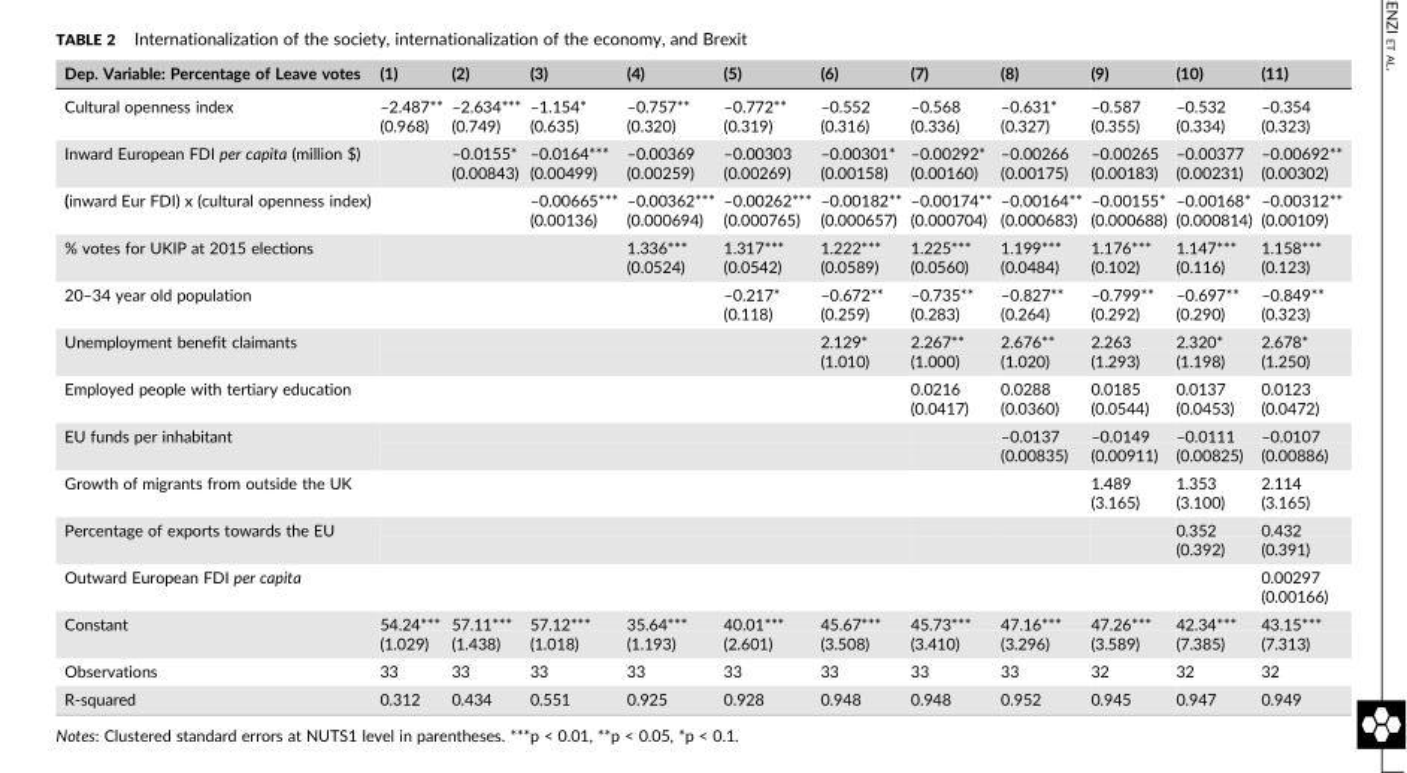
<table><thead><tr><td>Dep. Variable: Percentage of Leave votes</td><td>(1)</td><td>(2)</td><td>(3)</td><td>(4)</td><td>(5)</td><td>(6)</td><td>(7)</td><td>(8)</td><td>(9)</td><td>(10)</td><td>(11)</td></tr></thead><tbody><tr><td rowspan="2">Cultural openness index</td><td>–2.487**</td><td>–2.634***</td><td>–1.154*</td><td>–0.757**</td><td>–0.772**</td><td>–0.552</td><td>–0.568</td><td>–0.631*</td><td>–0.587</td><td>–0.532</td><td>–0.354</td></tr><tr><td>(0.968)</td><td>(0.749)</td><td>(0.635)</td><td>(0.320)</td><td>(0.319)</td><td>(0.316)</td><td>(0.336)</td><td>(0.327)</td><td>(0.355)</td><td>(0.334)</td><td>(0.323)</td></tr><tr><td rowspan="2">Inward European FDI per capita (million $)</td><td></td><td>–0.0155*</td><td>–0.0164***</td><td>–0.00369</td><td>–0.00303</td><td>–0.00301*</td><td>–0.00292*</td><td>–0.00266</td><td>–0.00265</td><td>–0.00377</td><td>–0.00692**</td></tr><tr><td></td><td>(0.00843)</td><td>(0.00499)</td><td>(0.00259)</td><td>(0.00269)</td><td>(0.00158)</td><td>(0.00160)</td><td>(0.00175)</td><td>(0.00183)</td><td>(0.00231)</td><td>(0.00302)</td></tr><tr><td rowspan="2">(inward Eur FDI) x (cultural openness index)</td><td></td><td></td><td>–0.00665***</td><td>–0.00362***</td><td>–0.00262***</td><td>–0.00182**</td><td>–0.00174**</td><td>–0.00164**</td><td>–0.00155*</td><td>–0.00168*</td><td>–0.00312**</td></tr><tr><td></td><td></td><td>(0.00136)</td><td>(0.000694)</td><td>(0.000765)</td><td>(0.000657)</td><td>(0.000704)</td><td>(0.000683)</td><td>(0.000688)</td><td>(0.000814)</td><td>(0.00109)</td></tr><tr><td rowspan="2">% votes for UKIP at 2015 elections</td><td></td><td></td><td></td><td>1.336***</td><td>1.317***</td><td>1.222***</td><td>1.225***</td><td>1.199***</td><td>1.176***</td><td>1.147***</td><td>1.158***</td></tr><tr><td></td><td></td><td></td><td>(0.0524)</td><td>(0.0542)</td><td>(0.0589)</td><td>(0.0560)</td><td>(0.0484)</td><td>(0.102)</td><td>(0.116)</td><td>(0.123)</td></tr><tr><td rowspan="2">20–34 year old population</td><td></td><td></td><td></td><td></td><td>–0.217*</td><td>–0.672**</td><td>–0.735**</td><td>–0.827**</td><td>–0.799**</td><td>–0.697**</td><td>–0.849**</td></tr><tr><td></td><td></td><td></td><td></td><td>(0.118)</td><td>(0.259)</td><td>(0.283)</td><td>(0.264)</td><td>(0.292)</td><td>(0.290)</td><td>(0.323)</td></tr><tr><td rowspan="2">Unemployment benefit claimants</td><td></td><td></td><td></td><td></td><td></td><td>2.129*</td><td>2.267**</td><td>2.676**</td><td>2.263</td><td>2.320*</td><td>2.678*</td></tr><tr><td></td><td></td><td></td><td></td><td></td><td>(1.010)</td><td>(1.000)</td><td>(1.020)</td><td>(1.293)</td><td>(1.198)</td><td>(1.250)</td></tr><tr><td rowspan="2">Employed people with tertiary education</td><td></td><td></td><td></td><td></td><td></td><td></td><td>0.0216</td><td>0.0288</td><td>0.0185</td><td>0.0137</td><td>0.0123</td></tr><tr><td></td><td></td><td></td><td></td><td></td><td></td><td>(0.0417)</td><td>(0.0360)</td><td>(0.0544)</td><td>(0.0453)</td><td>(0.0472)</td></tr><tr><td rowspan="2">EU funds per inhabitant</td><td></td><td></td><td></td><td></td><td></td><td></td><td></td><td>–0.0137</td><td>–0.0149</td><td>–0.0111</td><td>–0.0107</td></tr><tr><td></td><td></td><td></td><td></td><td></td><td></td><td></td><td>(0.00835)</td><td>(0.00911)</td><td>(0.00825)</td><td>(0.00886)</td></tr><tr><td rowspan="2">Growth of migrants from outside the UK</td><td></td><td></td><td></td><td></td><td></td><td></td><td></td><td></td><td>1.489</td><td>1.353</td><td>2.114</td></tr><tr><td></td><td></td><td></td><td></td><td></td><td></td><td></td><td></td><td>(3.165)</td><td>(3.100)</td><td>(3.165)</td></tr><tr><td rowspan="2">Percentage of exports towards the EU</td><td></td><td></td><td></td><td></td><td></td><td></td><td></td><td></td><td></td><td>0.352</td><td>0.432</td></tr><tr><td></td><td></td><td></td><td></td><td></td><td></td><td></td><td></td><td></td><td>(0.392)</td><td>(0.391)</td></tr><tr><td rowspan="2">Outward European FDI per capita</td><td></td><td></td><td></td><td></td><td></td><td></td><td></td><td></td><td></td><td></td><td>0.00297</td></tr><tr><td></td><td></td><td></td><td></td><td></td><td></td><td></td><td></td><td></td><td></td><td>(0.00166)</td></tr><tr><td rowspan="2">Constant</td><td>54.24***</td><td>57.11***</td><td>57.12***</td><td>35.64***</td><td>40.01***</td><td>45.67***</td><td>45.73***</td><td>47.16***</td><td>47.26***</td><td>42.34***</td><td>43.15***</td></tr><tr><td>(1.029)</td><td>(1.438)</td><td>(1.018)</td><td>(1.193)</td><td>(2.601)</td><td>(3.508)</td><td>(3.410)</td><td>(3.296)</td><td>(3.589)</td><td>(7.385)</td><td>(7.313)</td></tr><tr><td>Observations</td><td>33</td><td>33</td><td>33</td><td>33</td><td>33</td><td>33</td><td>33</td><td>33</td><td>32</td><td>32</td><td>32</td></tr><tr><td>R‐squared</td><td>0.312</td><td>0.434</td><td>0.551</td><td>0.925</td><td>0.928</td><td>0.948</td><td>0.948</td><td>0.952</td><td>0.945</td><td>0.947</td><td>0.949</td></tr></tbody></table>